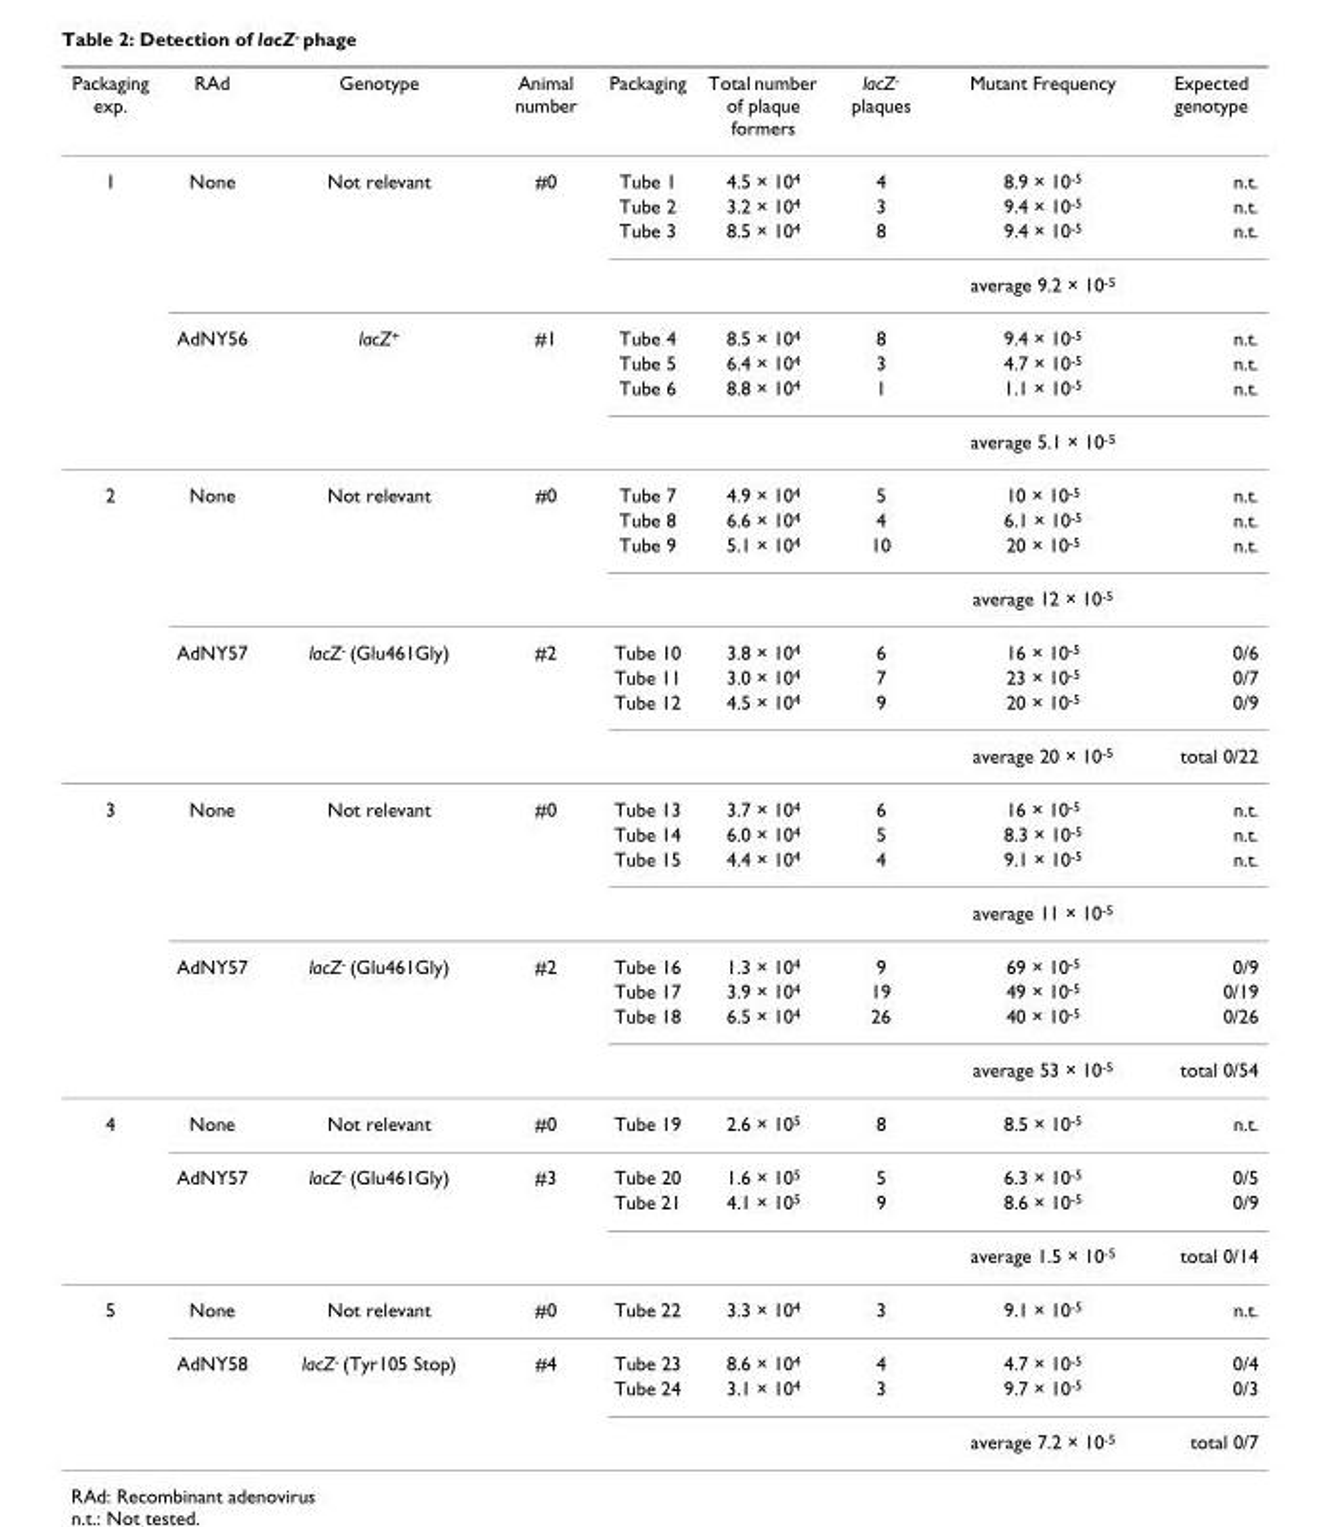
<table><thead><tr><td>Packaging exp.</td><td>RAd</td><td>Genotype</td><td>Animal number</td><td>Packaging</td><td>Total number of plaque formers</td><td>lacZ<sup>-</sup> plaques</td><td>Mutant Frequency</td><td>Expected genotype</td></tr></thead><tbody><tr><td rowspan="8">1</td><td>None</td><td>Not relevant</td><td>#0</td><td>Tube 1</td><td>4.5 × 10<sup>4</sup></td><td>4</td><td>8.9 × 10<sup>-5</sup></td><td>n.t.</td></tr><tr><td></td><td></td><td></td><td>Tube 2</td><td>3.2 × 10<sup>4</sup></td><td>3</td><td>9.4 × 10<sup>-5</sup></td><td>n.t.</td></tr><tr><td></td><td></td><td></td><td>Tube 3</td><td>8.5 × 10<sup>4</sup></td><td>8</td><td>9.4 × 10<sup>-5</sup></td><td>n.t.</td></tr><tr><td></td><td></td><td></td><td></td><td></td><td></td><td>average 9.2 × 10<sup>-5</sup></td><td></td></tr><tr><td>AdNY56</td><td>lacZ<sup>+</sup></td><td>#1</td><td>Tube 4</td><td>8.5 × 10<sup>4</sup></td><td>8</td><td>9.4 × 10<sup>-5</sup></td><td>n.t.</td></tr><tr><td></td><td></td><td></td><td>Tube 5</td><td>6.4 × 10<sup>4</sup></td><td>3</td><td>4.7 × 10<sup>-5</sup></td><td>n.t.</td></tr><tr><td></td><td></td><td></td><td>Tube 6</td><td>8.8 × 10<sup>4</sup></td><td>1</td><td>1.1 × 10<sup>-5</sup></td><td>n.t.</td></tr><tr><td></td><td></td><td></td><td></td><td></td><td></td><td>average 5.1 × 10<sup>-5</sup></td><td></td></tr><tr><td rowspan="8">2</td><td>None</td><td>Not relevant</td><td>#0</td><td>Tube 7</td><td>4.9 × 10<sup>4</sup></td><td>5</td><td>10 × 10<sup>-5</sup></td><td>n.t.</td></tr><tr><td></td><td></td><td></td><td>Tube 8</td><td>6.6 × 10<sup>4</sup></td><td>4</td><td>6.1 × 10<sup>-5</sup></td><td>n.t.</td></tr><tr><td></td><td></td><td></td><td>Tube 9</td><td>5.1 × 10<sup>4</sup></td><td>10</td><td>20 × 10<sup>-5</sup></td><td>n.t.</td></tr><tr><td></td><td></td><td></td><td></td><td></td><td></td><td>average 12 × 10<sup>-5</sup></td><td></td></tr><tr><td>AdNY57</td><td>lacZ<sup>-</sup> (Glu461Gly)</td><td>#2</td><td>Tube 10</td><td>3.8 × 10<sup>4</sup></td><td>6</td><td>16 × 10<sup>-5</sup></td><td>0/6</td></tr><tr><td></td><td></td><td></td><td>Tube 11</td><td>3.0 × 10<sup>4</sup></td><td>7</td><td>23 × 10<sup>-5</sup></td><td>0/7</td></tr><tr><td></td><td></td><td></td><td>Tube 12</td><td>4.5 × 10<sup>4</sup></td><td>9</td><td>20 × 10<sup>-5</sup></td><td>0/9</td></tr><tr><td></td><td></td><td></td><td></td><td></td><td></td><td>average 20 × 10<sup>-5</sup></td><td>total 0/22</td></tr><tr><td rowspan="8">3</td><td>None</td><td>Not relevant</td><td>#0</td><td>Tube 13</td><td>3.7 × 10<sup>4</sup></td><td>6</td><td>16 × 10<sup>-5</sup></td><td>n.t.</td></tr><tr><td></td><td></td><td></td><td>Tube 14</td><td>6.0 × 10<sup>4</sup></td><td>5</td><td>8.3 × 10<sup>-5</sup></td><td>n.t.</td></tr><tr><td></td><td></td><td></td><td>Tube 15</td><td>4.4 × 10<sup>4</sup></td><td>4</td><td>9.1 × 10<sup>-5</sup></td><td>n.t.</td></tr><tr><td></td><td></td><td></td><td></td><td></td><td></td><td>average 11 × 10<sup>-5</sup></td><td></td></tr><tr><td>AdNY57</td><td>lacZ<sup>-</sup> (Glu461Gly)</td><td>#2</td><td>Tube 16</td><td>1.3 × 10<sup>4</sup></td><td>9</td><td>69 × 10<sup>-5</sup></td><td>0/9</td></tr><tr><td></td><td></td><td></td><td>Tube 17</td><td>3.9 × 10<sup>4</sup></td><td>19</td><td>49 × 10<sup>-5</sup></td><td>0/19</td></tr><tr><td></td><td></td><td></td><td>Tube 18</td><td>6.5 × 10<sup>4</sup></td><td>26</td><td>40 × 10<sup>-5</sup></td><td>0/26</td></tr><tr><td></td><td></td><td></td><td></td><td></td><td></td><td>average 53 × 10<sup>-5</sup></td><td>total 0/54</td></tr><tr><td rowspan="4">4</td><td>None</td><td>Not relevant</td><td>#0</td><td>Tube 19</td><td>2.6 × 10<sup>5</sup></td><td>8</td><td>8.5 × 10<sup>-5</sup></td><td>n.t.</td></tr><tr><td>AdNY57</td><td>lacZ<sup>-</sup> (Glu461Gly)</td><td>#3</td><td>Tube 20</td><td>1.6 × 10<sup>5</sup></td><td>5</td><td>6.3 × 10<sup>-5</sup></td><td>0/5</td></tr><tr><td></td><td></td><td></td><td>Tube 21</td><td>4.1 × 10<sup>5</sup></td><td>9</td><td>8.6 × 10<sup>-5</sup></td><td>0/9</td></tr><tr><td></td><td></td><td></td><td></td><td></td><td></td><td>average 1.5 × 10<sup>-5</sup></td><td>total 0/14</td></tr><tr><td rowspan="4">5</td><td>None</td><td>Not relevant</td><td>#0</td><td>Tube 22</td><td>3.3 × 10<sup>4</sup></td><td>3</td><td>9.1 × 10<sup>-5</sup></td><td>n.t.</td></tr><tr><td>AdNY58</td><td>lacZ<sup>-</sup> (Tyr105 Stop)</td><td>#4</td><td>Tube 23</td><td>8.6 × 10<sup>4</sup></td><td>4</td><td>4.7 × 10<sup>-5</sup></td><td>0/4</td></tr><tr><td></td><td></td><td></td><td>Tube 24</td><td>3.1 × 10<sup>4</sup></td><td>3</td><td>9.7 × 10<sup>-5</sup></td><td>0/3</td></tr><tr><td></td><td></td><td></td><td></td><td></td><td></td><td>average 7.2 × 10<sup>-5</sup></td><td>total 0/7</td></tr></tbody></table>